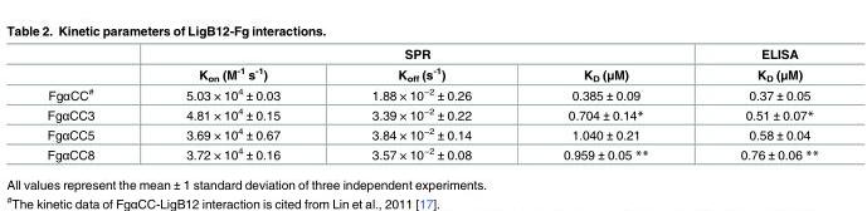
<table><thead><tr><td rowspan="2"></td><td colspan="3">SPR</td><td rowspan="2">ELISA K<sub>D</sub> (μM)</td></tr><tr><td>K<sub>on</sub> (M<sup>-1</sup> s<sup>-1</sup>)</td><td>K<sub>off</sub> (s<sup>-1</sup>)</td><td>K<sub>D</sub> (μM)</td></tr></thead><tbody><tr><td>FgαCC<sup>#</sup></td><td>5.03 × 10<sup>4</sup> ± 0.03</td><td>1.88 × 10<sup>−2</sup> ± 0.26</td><td>0.385 ± 0.09</td><td>0.37 ± 0.05</td></tr><tr><td>FgαCC3</td><td>4.81 × 10<sup>4</sup> ± 0.15</td><td>3.39 × 10<sup>−2</sup> ± 0.22</td><td>0.704 ± 0.14*</td><td>0.51 ± 0.07*</td></tr><tr><td>FgαCC5</td><td>3.69 × 10<sup>4</sup> ± 0.67</td><td>3.84 × 10<sup>−2</sup> ± 0.14</td><td>1.040 ± 0.21</td><td>0.58 ± 0.04</td></tr><tr><td>FgαCC8</td><td>3.72 × 10<sup>4</sup> ± 0.16</td><td>3.57 × 10<sup>−2</sup> ± 0.08</td><td>0.959 ± 0.05 **</td><td>0.76 ± 0.06 **</td></tr></tbody></table>